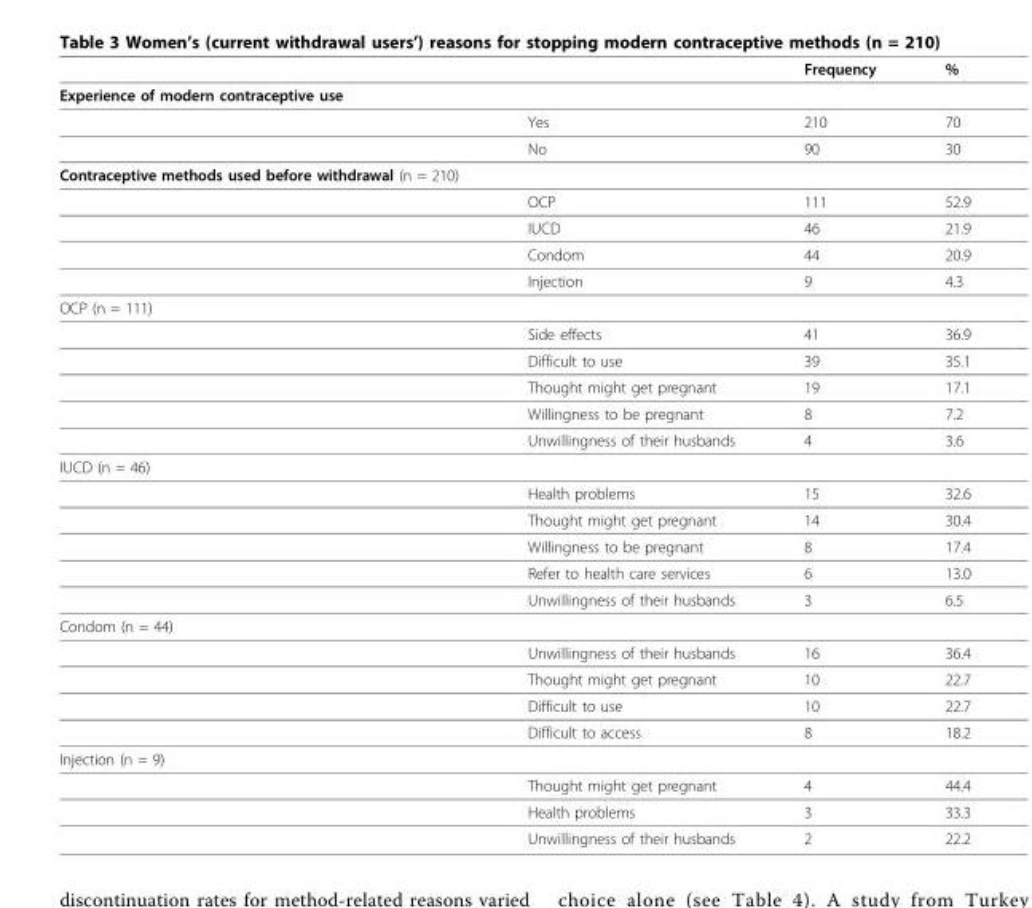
<table><thead><tr><td></td><td></td><td>Frequency</td><td>%</td></tr></thead><tbody><tr><td colspan="4">Experience of modern contraceptive use</td></tr><tr><td></td><td>Yes</td><td>210</td><td>70</td></tr><tr><td></td><td>No</td><td>90</td><td>30</td></tr><tr><td colspan="4">Contraceptive methods used before withdrawal (n = 210)</td></tr><tr><td></td><td>OCP</td><td>111</td><td>52.9</td></tr><tr><td></td><td>IUCD</td><td>46</td><td>21.9</td></tr><tr><td></td><td>Condom</td><td>44</td><td>20.9</td></tr><tr><td></td><td>Injection</td><td>9</td><td>4.3</td></tr><tr><td colspan="4">OCP (n = 111)</td></tr><tr><td></td><td>Side effects</td><td>41</td><td>36.9</td></tr><tr><td></td><td>Difficult to use</td><td>39</td><td>35.1</td></tr><tr><td></td><td>Thought might get pregnant</td><td>19</td><td>17.1</td></tr><tr><td></td><td>Willingness to be pregnant</td><td>8</td><td>7.2</td></tr><tr><td></td><td>Unwillingness of their husbands</td><td>4</td><td>3.6</td></tr><tr><td colspan="4">IUCD (n = 46)</td></tr><tr><td></td><td>Health problems</td><td>15</td><td>32.6</td></tr><tr><td></td><td>Thought might get pregnant</td><td>14</td><td>30.4</td></tr><tr><td></td><td>Willingness to be pregnant</td><td>8</td><td>17.4</td></tr><tr><td></td><td>Refer to health care services</td><td>6</td><td>13.0</td></tr><tr><td></td><td>Unwillingness of their husbands</td><td>3</td><td>6.5</td></tr><tr><td colspan="4">Condom (n = 44)</td></tr><tr><td></td><td>Unwillingness of their husbands</td><td>16</td><td>36.4</td></tr><tr><td></td><td>Thought might get pregnant</td><td>10</td><td>22.7</td></tr><tr><td></td><td>Difficult to use</td><td>10</td><td>22.7</td></tr><tr><td></td><td>Difficult to access</td><td>8</td><td>18.2</td></tr><tr><td colspan="4">Injection (n = 9)</td></tr><tr><td></td><td>Thought might get pregnant</td><td>4</td><td>44.4</td></tr><tr><td></td><td>Health problems</td><td>3</td><td>33.3</td></tr><tr><td></td><td>Unwillingness of their husbands</td><td>2</td><td>22.2</td></tr></tbody></table>